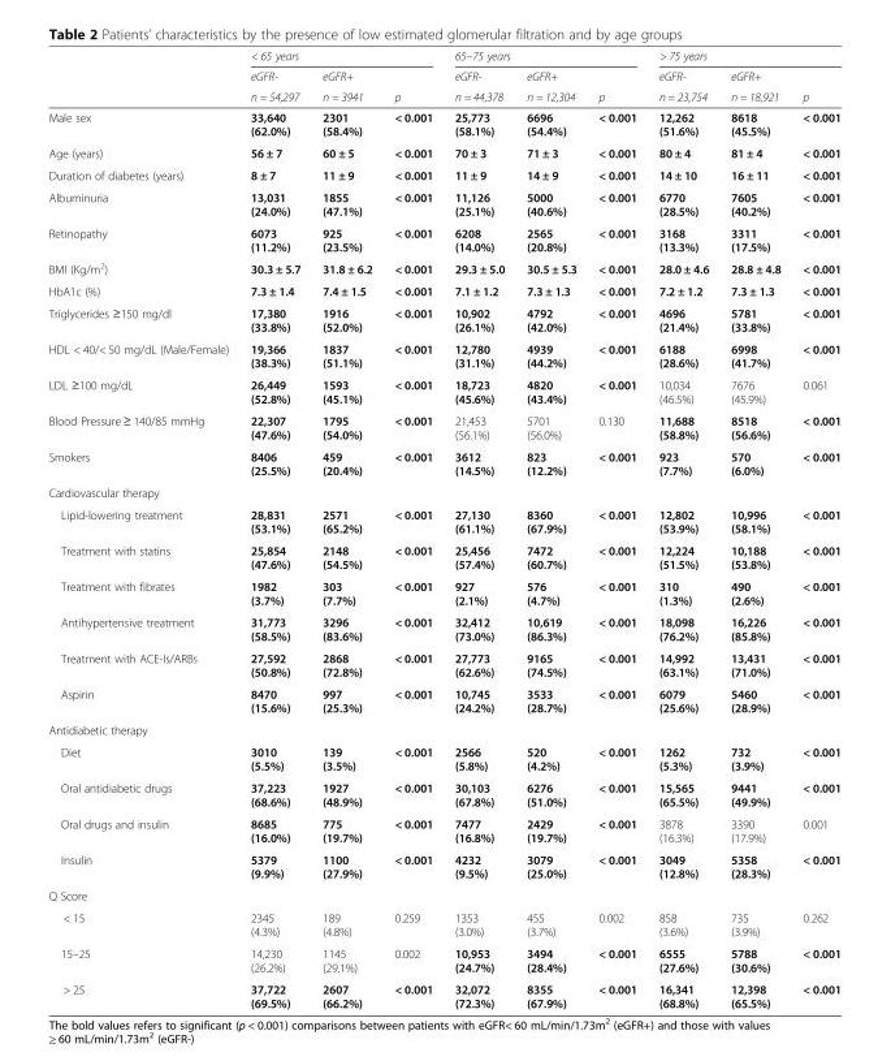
<table><thead><tr><td rowspan="3"></td><td colspan="3">&lt; 65 years</td><td colspan="3">65–75 years</td><td colspan="3">&gt; 75 years</td></tr><tr><td rowspan="2">eGFR- n = 54,297</td><td rowspan="2">eGFR+ n = 3941</td><td rowspan="2">p</td><td rowspan="2">eGFR- n = 44,378</td><td rowspan="2">eGFR+ n = 12,304</td><td rowspan="2">p</td><td rowspan="2">eGFR- n = 23,754</td><td rowspan="2">eGFR+ n = 18,921</td><td rowspan="2">p</td></tr><tr></tr></thead><tbody><tr><td>Male sex</td><td>33,640 (62.0%)</td><td>2301 (58.4%)</td><td>&lt; 0.001</td><td>25,773 (58.1%)</td><td>6696 (54.4%)</td><td>&lt; 0.001</td><td>12,262 (51.6%)</td><td>8618 (45.5%)</td><td>&lt; 0.001</td></tr><tr><td>Age (years)</td><td>56 ± 7</td><td>60 ± 5</td><td>&lt; 0.001</td><td>70 ± 3</td><td>71 ± 3</td><td>&lt; 0.001</td><td>80 ± 4</td><td>81 ± 4</td><td>&lt; 0.001</td></tr><tr><td>Duration of diabetes (years)</td><td>8 ± 7</td><td>11 ± 9</td><td>&lt; 0.001</td><td>11 ± 9</td><td>14 ± 9</td><td>&lt; 0.001</td><td>14 ± 10</td><td>16 ± 11</td><td>&lt; 0.001</td></tr><tr><td>Albuminuria</td><td>13,031 (24.0%)</td><td>1855 (47.1%)</td><td>&lt; 0.001</td><td>11,126 (25.1%)</td><td>5000 (40.6%)</td><td>&lt; 0.001</td><td>6770 (28.5%)</td><td>7605 (40.2%)</td><td>&lt; 0.001</td></tr><tr><td>Retinopathy</td><td>6073 (11.2%)</td><td>925 (23.5%)</td><td>&lt; 0.001</td><td>6208 (14.0%)</td><td>2565 (20.8%)</td><td>&lt; 0.001</td><td>3168 (13.3%)</td><td>3311 (17.5%)</td><td>&lt; 0.001</td></tr><tr><td>BMI (Kg/m<sup>2</sup>)</td><td>30.3 ± 5.7</td><td>31.8 ± 6.2</td><td>&lt; 0.001</td><td>29.3 ± 5.0</td><td>30.5 ± 5.3</td><td>&lt; 0.001</td><td>28.0 ± 4.6</td><td>28.8 ± 4.8</td><td>&lt; 0.001</td></tr><tr><td>HbA1c (%)</td><td>7.3 ± 1.4</td><td>7.4 ± 1.5</td><td>&lt; 0.001</td><td>7.1 ± 1.2</td><td>7.3 ± 1.3</td><td>&lt; 0.001</td><td>7.2 ± 1.2</td><td>7.3 ± 1.3</td><td>&lt; 0.001</td></tr><tr><td>Triglycerides ≥150 mg/dl</td><td>17,380 (33.8%)</td><td>1916 (52.0%)</td><td>&lt; 0.001</td><td>10,902 (26.1%)</td><td>4792 (42.0%)</td><td>&lt; 0.001</td><td>4696 (21.4%)</td><td>5781 (33.8%)</td><td>&lt; 0.001</td></tr><tr><td>HDL &lt; 40/&lt; 50 mg/dL (Male/Female)</td><td>19,366 (38.3%)</td><td>1837 (51.1%)</td><td>&lt; 0.001</td><td>12,780 (31.1%)</td><td>4939 (44.2%)</td><td>&lt; 0.001</td><td>6188 (28.6%)</td><td>6998 (41.7%)</td><td>&lt; 0.001</td></tr><tr><td>LDL ≥100 mg/dL</td><td>26,449 (52.8%)</td><td>1593 (45.1%)</td><td>&lt; 0.001</td><td>18,723 (45.6%)</td><td>4820 (43.4%)</td><td>&lt; 0.001</td><td>10,034 (46.5%)</td><td>7676 (45.9%)</td><td>0.061</td></tr><tr><td>Blood Pressure ≥ 140/85 mmHg</td><td>22,307 (47.6%)</td><td>1795 (54.0%)</td><td>&lt; 0.001</td><td>21,453 (56.1%)</td><td>5701 (56.0%)</td><td>0.130</td><td>11,688 (58.8%)</td><td>8518 (56.6%)</td><td>&lt; 0.001</td></tr><tr><td>Smokers</td><td>8406 (25.5%)</td><td>459 (20.4%)</td><td>&lt; 0.001</td><td>3612 (14.5%)</td><td>823 (12.2%)</td><td>&lt; 0.001</td><td>923 (7.7%)</td><td>570 (6.0%)</td><td>&lt; 0.001</td></tr><tr><td colspan="10">Cardiovascular therapy</td></tr><tr><td>Lipid-lowering treatment</td><td>28,831 (53.1%)</td><td>2571 (65.2%)</td><td>&lt; 0.001</td><td>27,130 (61.1%)</td><td>8360 (67.9%)</td><td>&lt; 0.001</td><td>12,802 (53.9%)</td><td>10,996 (58.1%)</td><td>&lt; 0.001</td></tr><tr><td>Treatment with statins</td><td>25,854 (47.6%)</td><td>2148 (54.5%)</td><td>&lt; 0.001</td><td>25,456 (57.4%)</td><td>7472 (60.7%)</td><td>&lt; 0.001</td><td>12,224 (51.5%)</td><td>10,188 (53.8%)</td><td>&lt; 0.001</td></tr><tr><td>Treatment with fibrates</td><td>1982 (3.7%)</td><td>303 (7.7%)</td><td>&lt; 0.001</td><td>927 (2.1%)</td><td>576 (4.7%)</td><td>&lt; 0.001</td><td>310 (1.3%)</td><td>490 (2.6%)</td><td>&lt; 0.001</td></tr><tr><td>Antihypertensive treatment</td><td>31,773 (58.5%)</td><td>3296 (83.6%)</td><td>&lt; 0.001</td><td>32,412 (73.0%)</td><td>10,619 (86.3%)</td><td>&lt; 0.001</td><td>18,098 (76.2%)</td><td>16,226 (85.8%)</td><td>&lt; 0.001</td></tr><tr><td>Treatment with ACE-Is/ARBs</td><td>27,592 (50.8%)</td><td>2868 (72.8%)</td><td>&lt; 0.001</td><td>27,773 (62.6%)</td><td>9165 (74.5%)</td><td>&lt; 0.001</td><td>14,992 (63.1%)</td><td>13,431 (71.0%)</td><td>&lt; 0.001</td></tr><tr><td>Aspirin</td><td>8470 (15.6%)</td><td>997 (25.3%)</td><td>&lt; 0.001</td><td>10,745 (24.2%)</td><td>3533 (28.7%)</td><td>&lt; 0.001</td><td>6079 (25.6%)</td><td>5460 (28.9%)</td><td>&lt; 0.001</td></tr><tr><td colspan="10">Antidiabetic therapy</td></tr><tr><td>Diet</td><td>3010 (5.5%)</td><td>139 (3.5%)</td><td>&lt; 0.001</td><td>2566 (5.8%)</td><td>520 (4.2%)</td><td>&lt; 0.001</td><td>1262 (5.3%)</td><td>732 (3.9%)</td><td>&lt; 0.001</td></tr><tr><td>Oral antidiabetic drugs</td><td>37,223 (68.6%)</td><td>1927 (48.9%)</td><td>&lt; 0.001</td><td>30,103 (67.8%)</td><td>6276 (51.0%)</td><td>&lt; 0.001</td><td>15,565 (65.5%)</td><td>9441 (49.9%)</td><td>&lt; 0.001</td></tr><tr><td>Oral drugs and insulin</td><td>8685 (16.0%)</td><td>775 (19.7%)</td><td>&lt; 0.001</td><td>7477 (16.8%)</td><td>2429 (19.7%)</td><td>&lt; 0.001</td><td>3878 (16.3%)</td><td>3390 (17.9%)</td><td>0.001</td></tr><tr><td>Insulin</td><td>5379 (9.9%)</td><td>1100 (27.9%)</td><td>&lt; 0.001</td><td>4232 (9.5%)</td><td>3079 (25.0%)</td><td>&lt; 0.001</td><td>3049 (12.8%)</td><td>5358 (28.3%)</td><td>&lt; 0.001</td></tr><tr><td colspan="10">Q Score</td></tr><tr><td>&lt; 15</td><td>2345 (4.3%)</td><td>189 (4.8%)</td><td>0.259</td><td>1353 (3.0%)</td><td>455 (3.7%)</td><td>0.002</td><td>858 (3.6%)</td><td>735 (3.9%)</td><td>0.262</td></tr><tr><td>15–25</td><td>14,230 (26.2%)</td><td>1145 (29.1%)</td><td>0.002</td><td>10,953 (24.7%)</td><td>3494 (28.4%)</td><td>&lt; 0.001</td><td>6555 (27.6%)</td><td>5788 (30.6%)</td><td>&lt; 0.001</td></tr><tr><td>&gt; 25</td><td>37,722 (69.5%)</td><td>2607 (66.2%)</td><td>&lt; 0.001</td><td>32,072 (72.3%)</td><td>8355 (67.9%)</td><td>&lt; 0.001</td><td>16,341 (68.8%)</td><td>12,398 (65.5%)</td><td>&lt; 0.001</td></tr></tbody></table>